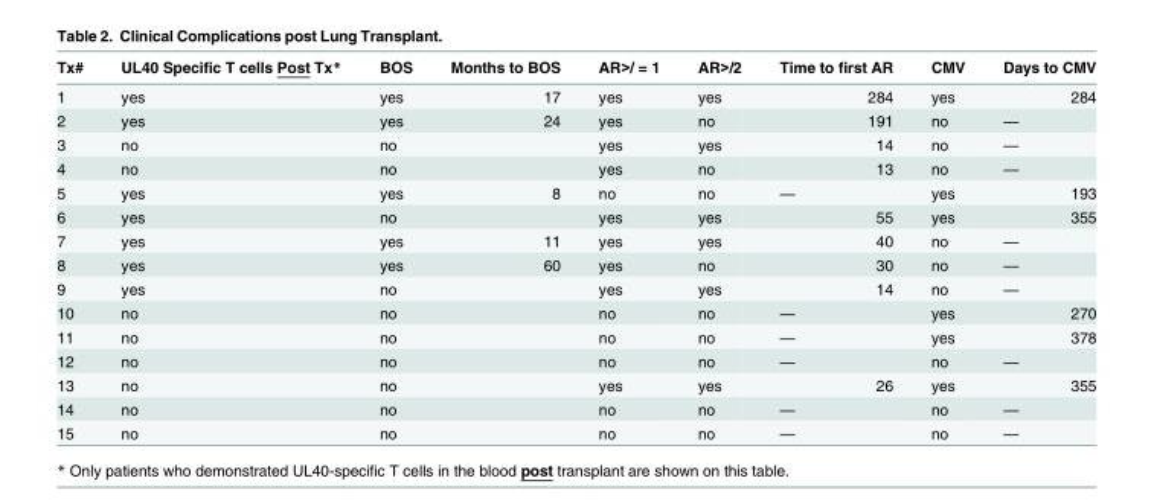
<table><thead><tr><td>Tx#</td><td>UL40 Specific T cells Post Tx*</td><td>BOS</td><td>Months to BOS</td><td>AR&gt;/ = 1</td><td>AR&gt;/2</td><td>Time to first AR</td><td>CMV</td><td>Days to CMV</td></tr></thead><tbody><tr><td>1</td><td>yes</td><td>yes</td><td>17</td><td>yes</td><td>yes</td><td>284</td><td>yes</td><td>284</td></tr><tr><td>2</td><td>yes</td><td>yes</td><td>24</td><td>yes</td><td>no</td><td>191</td><td>no</td><td>—</td></tr><tr><td>3</td><td>no</td><td>no</td><td></td><td>yes</td><td>yes</td><td>14</td><td>no</td><td>—</td></tr><tr><td>4</td><td>no</td><td>no</td><td></td><td>yes</td><td>no</td><td>13</td><td>no</td><td>—</td></tr><tr><td>5</td><td>yes</td><td>yes</td><td>8</td><td>no</td><td>no</td><td>—</td><td>yes</td><td>193</td></tr><tr><td>6</td><td>yes</td><td>no</td><td></td><td>yes</td><td>yes</td><td>55</td><td>yes</td><td>355</td></tr><tr><td>7</td><td>yes</td><td>yes</td><td>11</td><td>yes</td><td>yes</td><td>40</td><td>no</td><td>—</td></tr><tr><td>8</td><td>yes</td><td>yes</td><td>60</td><td>yes</td><td>no</td><td>30</td><td>no</td><td>—</td></tr><tr><td>9</td><td>yes</td><td>no</td><td></td><td>yes</td><td>yes</td><td>14</td><td>no</td><td>—</td></tr><tr><td>10</td><td>no</td><td>no</td><td></td><td>no</td><td>no</td><td>—</td><td>yes</td><td>270</td></tr><tr><td>11</td><td>no</td><td>no</td><td></td><td>no</td><td>no</td><td>—</td><td>yes</td><td>378</td></tr><tr><td>12</td><td>no</td><td>no</td><td></td><td>no</td><td>no</td><td>—</td><td>no</td><td>—</td></tr><tr><td>13</td><td>no</td><td>no</td><td></td><td>yes</td><td>yes</td><td>26</td><td>yes</td><td>355</td></tr><tr><td>14</td><td>no</td><td>no</td><td></td><td>no</td><td>no</td><td>—</td><td>no</td><td>—</td></tr><tr><td>15</td><td>no</td><td>no</td><td></td><td>no</td><td>no</td><td>—</td><td>no</td><td>—</td></tr></tbody></table>